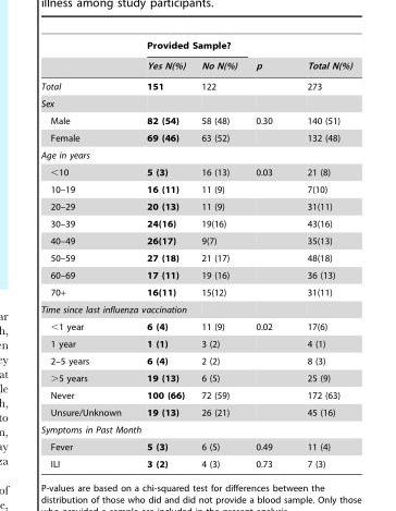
<table><thead><tr><td rowspan="2"></td><td colspan="2">Provided Sample?</td><td rowspan="2">p</td><td rowspan="2">Total N(%)</td></tr><tr><td>Yes N(%)</td><td>No N(%)</td></tr></thead><tbody><tr><td>Total</td><td>151</td><td>122</td><td></td><td>273</td></tr><tr><td colspan="5">Sex</td></tr><tr><td>Male</td><td>82 (54)</td><td>58 (48)</td><td>0.30</td><td>140 (51)</td></tr><tr><td>Female</td><td>69 (46)</td><td>63 (52)</td><td></td><td>132 (48)</td></tr><tr><td colspan="5">Age in years</td></tr><tr><td>&lt;10</td><td>5 (3)</td><td>16 (13)</td><td>0.03</td><td>21 (8)</td></tr><tr><td>10–19</td><td>16 (11)</td><td>11 (9)</td><td></td><td>7(10)</td></tr><tr><td>20–29</td><td>20 (13)</td><td>11 (9)</td><td></td><td>31(11)</td></tr><tr><td>30–39</td><td>24(16)</td><td>19(16)</td><td></td><td>43(16)</td></tr><tr><td>40–49</td><td>26(17)</td><td>9(7)</td><td></td><td>35(13)</td></tr><tr><td>50–59</td><td>27 (18)</td><td>21 (17)</td><td></td><td>48(18)</td></tr><tr><td>60–69</td><td>17 (11)</td><td>19 (16)</td><td></td><td>36 (13)</td></tr><tr><td>70+</td><td>16(11)</td><td>15(12)</td><td></td><td>31(11)</td></tr><tr><td colspan="5">Time since last influenza vaccination</td></tr><tr><td>&lt;1 year</td><td>6 (4)</td><td>11 (9)</td><td>0.02</td><td>17(6)</td></tr><tr><td>1 year</td><td>1 (1)</td><td>3 (2)</td><td></td><td>4 (1)</td></tr><tr><td>2–5 years</td><td>6 (4)</td><td>2 (2)</td><td></td><td>8 (3)</td></tr><tr><td>&gt;5 years</td><td>19 (13)</td><td>6 (5)</td><td></td><td>25 (9)</td></tr><tr><td>Never</td><td>100 (66)</td><td>72 (59)</td><td></td><td>172 (63)</td></tr><tr><td>Unsure/Unknown</td><td>19 (13)</td><td>26 (21)</td><td></td><td>45 (16)</td></tr><tr><td colspan="5">Symptoms in Past Month</td></tr><tr><td>Fever</td><td>5 (3)</td><td>6 (5)</td><td>0.49</td><td>11 (4)</td></tr><tr><td>ILI</td><td>3 (2)</td><td>4 (3)</td><td>0.73</td><td>7 (3)</td></tr></tbody></table>